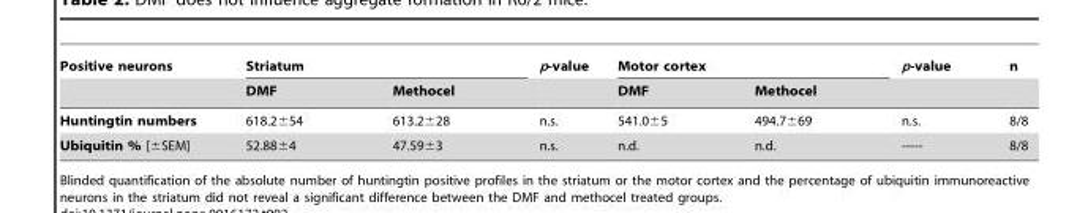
<table><thead><tr><td rowspan="2">Positive neurons</td><td colspan="2">Striatum</td><td rowspan="2">p-value</td><td colspan="2">Motor cortex</td><td rowspan="2">p-value</td><td rowspan="2">n</td></tr><tr><td>DMF</td><td>Methocel</td><td>DMF</td><td>Methocel</td></tr></thead><tbody><tr><td>Huntingtin numbers</td><td>618.2±54</td><td>613.2±28</td><td>n.s.</td><td>541.0±5</td><td>494.7±69</td><td>n.s.</td><td>8/8</td></tr><tr><td>Ubiquitin % [±SEM]</td><td>52.88±4</td><td>47.59±3</td><td>n.s.</td><td>n.d.</td><td>n.d.</td><td>-----</td><td>8/8</td></tr></tbody></table>